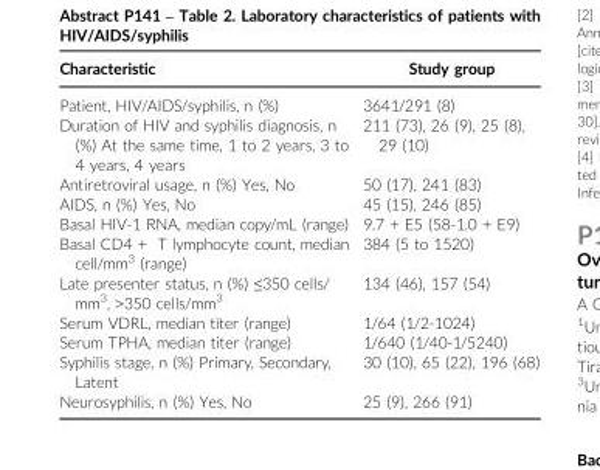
<table><thead><tr><td>Characteristic</td><td>Study group</td></tr></thead><tbody><tr><td>Patient, HIV/AIDS/syphilis, n (%)</td><td>3641/291 (8)</td></tr><tr><td>Duration of HIV and syphilis diagnosis, n (%) At the same time, 1 to 2 years, 3 to 4 years, 4 years</td><td>211 (73), 26 (9), 25 (8), 29 (10)</td></tr><tr><td>Antiretroviral usage, n (%) Yes, No</td><td>50 (17), 241 (83)</td></tr><tr><td>AIDS, n (%) Yes, No</td><td>45 (15), 246 (85)</td></tr><tr><td>Basal HIV-1 RNA, median copy/mL (range)</td><td>9.7 + E5 (58-1.0 + E9)</td></tr><tr><td>Basal CD4 + T lymphocyte count, median cell/mm<sup>3</sup> (range)</td><td>384 (5 to 1520)</td></tr><tr><td>Late presenter status, n (%) ≤350 cells/ mm<sup>3</sup>, &gt;350 cells/mm<sup>3</sup></td><td>134 (46), 157 (54)</td></tr><tr><td>Serum VDRL, median titer (range)</td><td>1/64 (1/2-1024)</td></tr><tr><td>Serum TPHA, median titer (range)</td><td>1/640 (1/40-1/5240)</td></tr><tr><td>Syphilis stage, n (%) Primary, Secondary, Latent</td><td>30 (10), 65 (22), 196 (68)</td></tr><tr><td>Neurosyphilis, n (%) Yes, No</td><td>25 (9), 266 (91)</td></tr></tbody></table>